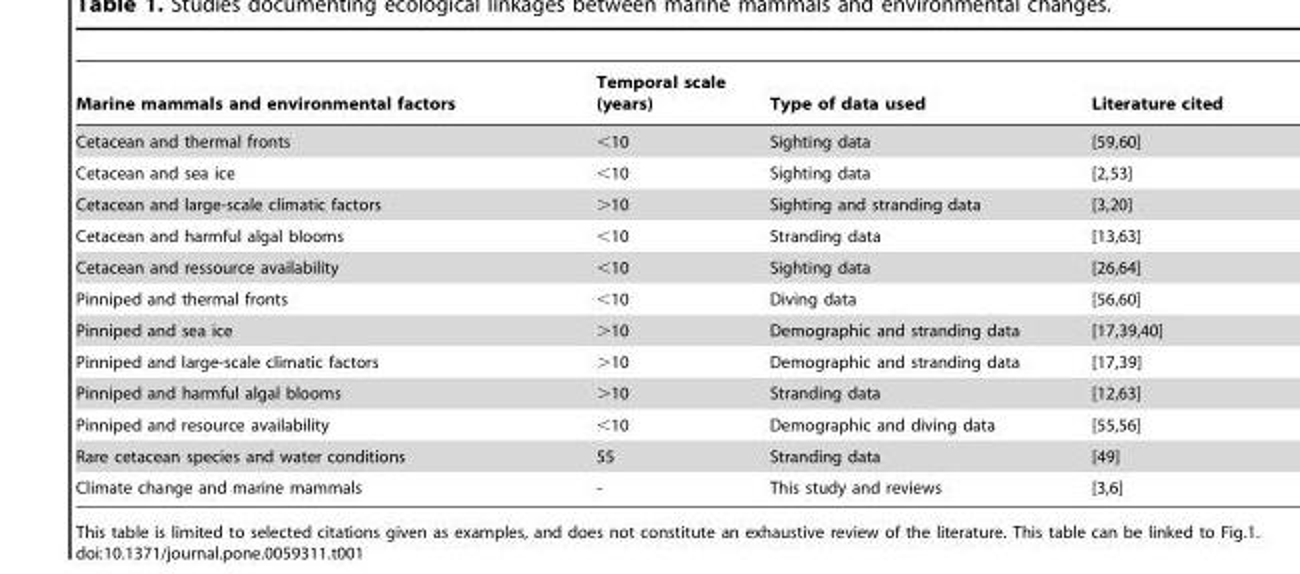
<table><thead><tr><td>Marine mammals and environmental factors</td><td>Temporal scale (years)</td><td>Type of data used</td><td>Literature cited</td></tr></thead><tbody><tr><td>Cetacean and thermal fronts</td><td>&lt;10</td><td>Sighting data</td><td>[59,60]</td></tr><tr><td>Cetacean and sea ice</td><td>&lt;10</td><td>Sighting data</td><td>[2,53]</td></tr><tr><td>Cetacean and large-scale climatic factors</td><td>&gt;10</td><td>Sighting and stranding data</td><td>[3,20]</td></tr><tr><td>Cetacean and harmful algal blooms</td><td>&lt;10</td><td>Stranding data</td><td>[13,63]</td></tr><tr><td>Cetacean and ressource availability</td><td>&lt;10</td><td>Sighting data</td><td>[26,64]</td></tr><tr><td>Pinniped and thermal fronts</td><td>&lt;10</td><td>Diving data</td><td>[56,60]</td></tr><tr><td>Pinniped and sea ice</td><td>&gt;10</td><td>Demographic and stranding data</td><td>[17,39,40]</td></tr><tr><td>Pinniped and large-scale climatic factors</td><td>&gt;10</td><td>Demographic and stranding data</td><td>[17,39]</td></tr><tr><td>Pinniped and harmful algal blooms</td><td>&gt;10</td><td>Stranding data</td><td>[12,63]</td></tr><tr><td>Pinniped and resource availability</td><td>&lt;10</td><td>Demographic and diving data</td><td>[55,56]</td></tr><tr><td>Rare cetacean species and water conditions</td><td>55</td><td>Stranding data</td><td>[49]</td></tr><tr><td>Climate change and marine mammals</td><td>-</td><td>This study and reviews</td><td>[3,6]</td></tr></tbody></table>